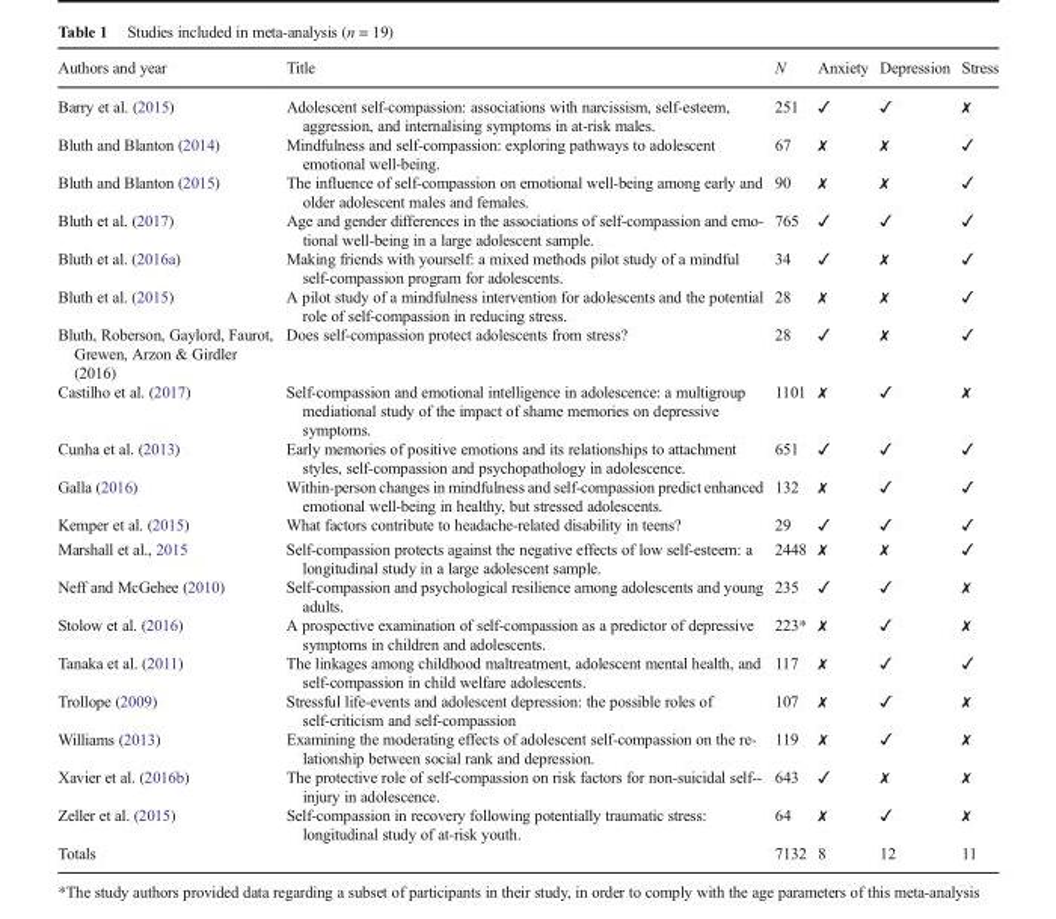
<table><thead><tr><td>Authors and year</td><td>Title</td><td>N</td><td>Anxiety</td><td>Depression</td><td>Stress</td></tr></thead><tbody><tr><td>Barry et al. (2015)</td><td>Adolescent self-compassion: associations with narcissism, self-esteem, aggression, and internalising symptoms in at-risk males.</td><td>251</td><td>✓</td><td>✓</td><td>✗</td></tr><tr><td>Bluth and Blanton (2014)</td><td>Mindfulness and self-compassion: exploring pathways to adolescent emotional well-being.</td><td>67</td><td>✗</td><td>✗</td><td>✓</td></tr><tr><td>Bluth and Blanton (2015)</td><td>The influence of self-compassion on emotional well-being among early and older adolescent males and females.</td><td>90</td><td>✗</td><td>✗</td><td>✓</td></tr><tr><td>Bluth et al. (2017)</td><td>Age and gender differences in the associations of self-compassion and emo- tional well-being in a large adolescent sample.</td><td>765</td><td>✓</td><td>✓</td><td>✓</td></tr><tr><td>Bluth et al. (2016a)</td><td>Making friends with yourself: a mixed methods pilot study of a mindful self-compassion program for adolescents.</td><td>34</td><td>✓</td><td>✗</td><td>✓</td></tr><tr><td>Bluth et al. (2015)</td><td>A pilot study of a mindfulness intervention for adolescents and the potential role of self-compassion in reducing stress.</td><td>28</td><td>✗</td><td>✗</td><td>✓</td></tr><tr><td>Bluth, Roberson, Gaylord, Faurot, Grewen, Arzon &amp; Girdler (2016)</td><td>Does self-compassion protect adolescents from stress?</td><td>28</td><td>✓</td><td>✗</td><td>✓</td></tr><tr><td>Castilho et al. (2017)</td><td>Self-compassion and emotional intelligence in adolescence: a multigroup mediational study of the impact of shame memories on depressive symptoms.</td><td>1101</td><td>✗</td><td>✓</td><td>✗</td></tr><tr><td>Cunha et al. (2013)</td><td>Early memories of positive emotions and its relationships to attachment styles, self-compassion and psychopathology in adolescence.</td><td>651</td><td>✓</td><td>✓</td><td>✓</td></tr><tr><td>Galla (2016)</td><td>Within-person changes in mindfulness and self-compassion predict enhanced emotional well-being in healthy, but stressed adolescents.</td><td>132</td><td>✗</td><td>✓</td><td>✓</td></tr><tr><td>Kemper et al. (2015)</td><td>What factors contribute to headache-related disability in teens?</td><td>29</td><td>✓</td><td>✓</td><td>✓</td></tr><tr><td>Marshall et al., 2015</td><td>Self-compassion protects against the negative effects of low self-esteem: a longitudinal study in a large adolescent sample.</td><td>2448</td><td>✗</td><td>✗</td><td>✓</td></tr><tr><td>Neff and McGehee (2010)</td><td>Self-compassion and psychological resilience among adolescents and young adults.</td><td>235</td><td>✓</td><td>✓</td><td>✗</td></tr><tr><td>Stolow et al. (2016)</td><td>A prospective examination of self-compassion as a predictor of depressive symptoms in children and adolescents.</td><td>223*</td><td>✗</td><td>✓</td><td>✗</td></tr><tr><td>Tanaka et al. (2011)</td><td>The linkages among childhood maltreatment, adolescent mental health, and self-compassion in child welfare adolescents.</td><td>117</td><td>✗</td><td>✓</td><td>✓</td></tr><tr><td>Trollope (2009)</td><td>Stressful life-events and adolescent depression: the possible roles of self-criticism and self-compassion</td><td>107</td><td>✗</td><td>✓</td><td>✗</td></tr><tr><td>Williams (2013)</td><td>Examining the moderating effects of adolescent self-compassion on the re- lationship between social rank and depression.</td><td>119</td><td>✗</td><td>✓</td><td>✗</td></tr><tr><td>Xavier et al. (2016b)</td><td>The protective role of self-compassion on risk factors for non-suicidal self-- injury in adolescence.</td><td>643</td><td>✓</td><td>✗</td><td>✗</td></tr><tr><td>Zeller et al. (2015)</td><td>Self-compassion in recovery following potentially traumatic stress: longitudinal study of at-risk youth.</td><td>64</td><td>✗</td><td>✓</td><td>✗</td></tr><tr><td colspan="2">Totals</td><td>7132</td><td>8</td><td>12</td><td>11</td></tr></tbody></table>